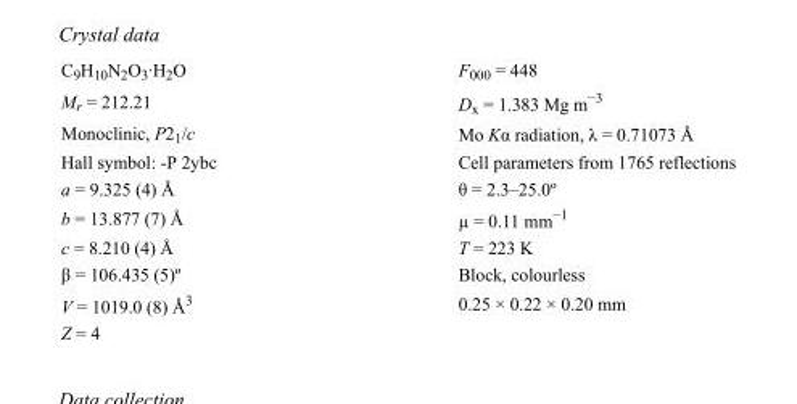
<table><tbody><tr><td>C<sub>9</sub>H<sub>10</sub>N<sub>2</sub>O<sub>3</sub>·H<sub>2</sub>O</td><td>F000 = 448</td></tr><tr><td>M<sub>r</sub> = 212.21</td><td>D<sub>x</sub> = 1.383 Mg m<sup>−3</sup></td></tr><tr><td>Monoclinic, P2<sub>1</sub>/c</td><td>Mo Kα radiation, λ = 0.71073 Å</td></tr><tr><td>Hall symbol: -P 2ybc</td><td>Cell parameters from 1765 reflections</td></tr><tr><td>a = 9.325 (4) Å</td><td>θ = 2.3–25.0º</td></tr><tr><td>b = 13.877 (7) Å</td><td>µ = 0.11 mm<sup>−1</sup></td></tr><tr><td>c = 8.210 (4) Å</td><td>T = 223 K</td></tr><tr><td>β = 106.435 (5)º</td><td>Block, colourless</td></tr><tr><td>V = 1019.0 (8) Å<sup>3</sup></td><td>0.25 × 0.22 × 0.20 mm</td></tr><tr><td>Z = 4</td><td></td></tr></tbody></table>